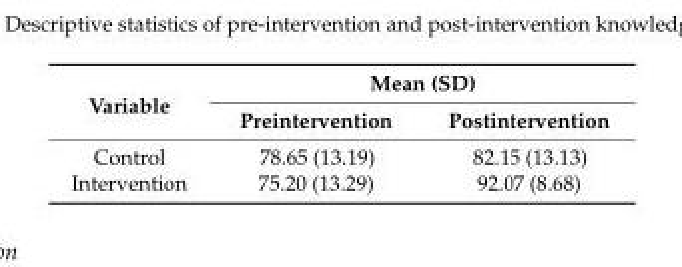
<table><thead><tr><td rowspan="2">Variable</td><td colspan="2">Mean (SD)</td></tr><tr><td>Preintervention</td><td>Postintervention</td></tr></thead><tbody><tr><td>Control Intervention</td><td>78.65 (13.19) 75.20 (13.29)</td><td>82.15 (13.13) 92.07 (8.68)</td></tr></tbody></table>